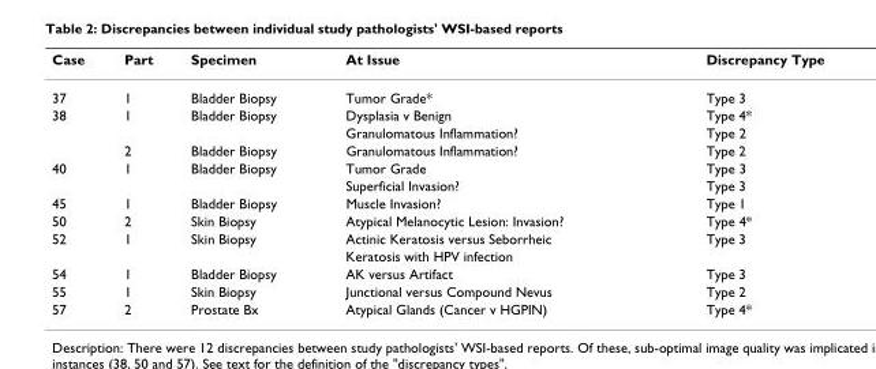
<table><thead><tr><td>Case</td><td>Part</td><td>Specimen</td><td>At Issue</td><td>Discrepancy Type</td></tr></thead><tbody><tr><td>37</td><td>1</td><td>Bladder Biopsy</td><td>Tumor Grade*</td><td>Type 3</td></tr><tr><td rowspan="3">38</td><td>1</td><td>Bladder Biopsy</td><td>Dysplasia v Benign</td><td>Type 4*</td></tr><tr><td></td><td></td><td>Granulomatous Inflammation?</td><td>Type 2</td></tr><tr><td>2</td><td>Bladder Biopsy</td><td>Granulomatous Inflammation?</td><td>Type 2</td></tr><tr><td rowspan="2">40</td><td>1</td><td>Bladder Biopsy</td><td>Tumor Grade</td><td>Type 3</td></tr><tr><td></td><td></td><td>Superficial Invasion?</td><td>Type 3</td></tr><tr><td>45</td><td>1</td><td>Bladder Biopsy</td><td>Muscle Invasion?</td><td>Type 1</td></tr><tr><td>50</td><td>2</td><td>Skin Biopsy</td><td>Atypical Melanocytic Lesion: Invasion?</td><td>Type 4*</td></tr><tr><td rowspan="2">52</td><td>1</td><td>Skin Biopsy</td><td>Actinic Keratosis versus Seborrheic</td><td>Type 3</td></tr><tr><td></td><td></td><td>Keratosis with HPV infection</td><td></td></tr><tr><td>54</td><td>1</td><td>Bladder Biopsy</td><td>AK versus Artifact</td><td>Type 3</td></tr><tr><td>55</td><td>1</td><td>Skin Biopsy</td><td>Junctional versus Compound Nevus</td><td>Type 2</td></tr><tr><td>57</td><td>2</td><td>Prostate Bx</td><td>Atypical Glands (Cancer v HGPIN)</td><td>Type 4*</td></tr></tbody></table>